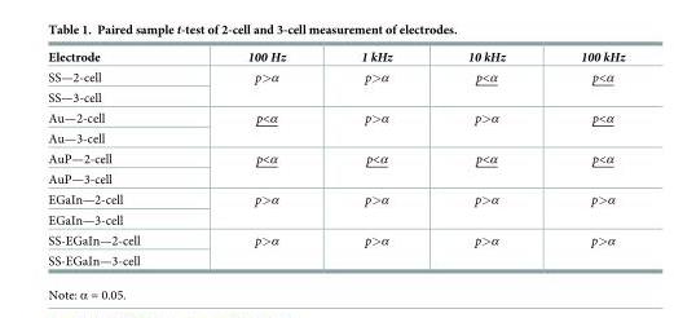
<table><thead><tr><td>Electrode</td><td>100 Hz</td><td>1 kHz</td><td>10 kHz</td><td>100 kHz</td></tr></thead><tbody><tr><td>SS—2-cell</td><td rowspan="2">p&gt;α</td><td rowspan="2">p&gt;α</td><td rowspan="2">p&lt;α</td><td rowspan="2">p&lt;α</td></tr><tr><td>SS—3-cell</td></tr><tr><td>Au—2-cell</td><td rowspan="2">p&lt;α</td><td rowspan="2">p&gt;α</td><td rowspan="2">p&gt;α</td><td rowspan="2">p&lt;α</td></tr><tr><td>Au—3-cell</td></tr><tr><td>AuP—2-cell</td><td rowspan="2">p&lt;α</td><td rowspan="2">p&lt;α</td><td rowspan="2">p&lt;α</td><td rowspan="2">p&lt;α</td></tr><tr><td>AuP—3-cell</td></tr><tr><td>EGaIn—2-cell</td><td rowspan="2">p&gt;α</td><td rowspan="2">p&gt;α</td><td rowspan="2">p&gt;α</td><td rowspan="2">p&gt;α</td></tr><tr><td>EGaIn—3-cell</td></tr><tr><td>SS-EGaIn—2-cell</td><td rowspan="2">p&gt;α</td><td rowspan="2">p&gt;α</td><td rowspan="2">p&gt;α</td><td rowspan="2">p&gt;α</td></tr><tr><td>SS-EGaIn—3-cell</td></tr></tbody></table>